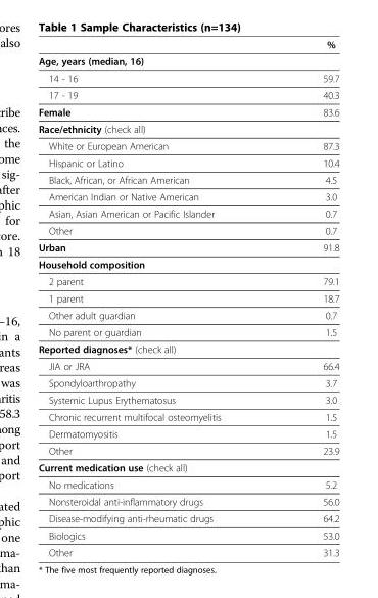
<table><thead><tr><td></td><td>%</td></tr></thead><tbody><tr><td colspan="2">Age, years (median, 16)</td></tr><tr><td>14 - 16</td><td>59.7</td></tr><tr><td>17 - 19</td><td>40.3</td></tr><tr><td>Female</td><td>83.6</td></tr><tr><td colspan="2">Race/ethnicity (check all)</td></tr><tr><td>White or European American</td><td>87.3</td></tr><tr><td>Hispanic or Latino</td><td>10.4</td></tr><tr><td>Black, African, or African American</td><td>4.5</td></tr><tr><td>American Indian or Native American</td><td>3.0</td></tr><tr><td>Asian, Asian American or Pacific Islander</td><td>0.7</td></tr><tr><td>Other</td><td>0.7</td></tr><tr><td>Urban</td><td>91.8</td></tr><tr><td colspan="2">Household composition</td></tr><tr><td>2 parent</td><td>79.1</td></tr><tr><td>1 parent</td><td>18.7</td></tr><tr><td>Other adult guardian</td><td>0.7</td></tr><tr><td>No parent or guardian</td><td>1.5</td></tr><tr><td colspan="2">Reported diagnoses* (check all)</td></tr><tr><td>JIA or JRA</td><td>66.4</td></tr><tr><td>Spondyloarthropathy</td><td>3.7</td></tr><tr><td>Systemic Lupus Erythematosus</td><td>3.0</td></tr><tr><td>Chronic recurrent multifocal osteomyelitis</td><td>1.5</td></tr><tr><td>Dermatomyositis</td><td>1.5</td></tr><tr><td>Other</td><td>23.9</td></tr><tr><td colspan="2">Current medication use (check all)</td></tr><tr><td>No medications</td><td>5.2</td></tr><tr><td>Nonsteroidal anti-inflammatory drugs</td><td>56.0</td></tr><tr><td>Disease-modifying anti-rheumatic drugs</td><td>64.2</td></tr><tr><td>Biologics</td><td>53.0</td></tr><tr><td>Other</td><td>31.3</td></tr></tbody></table>